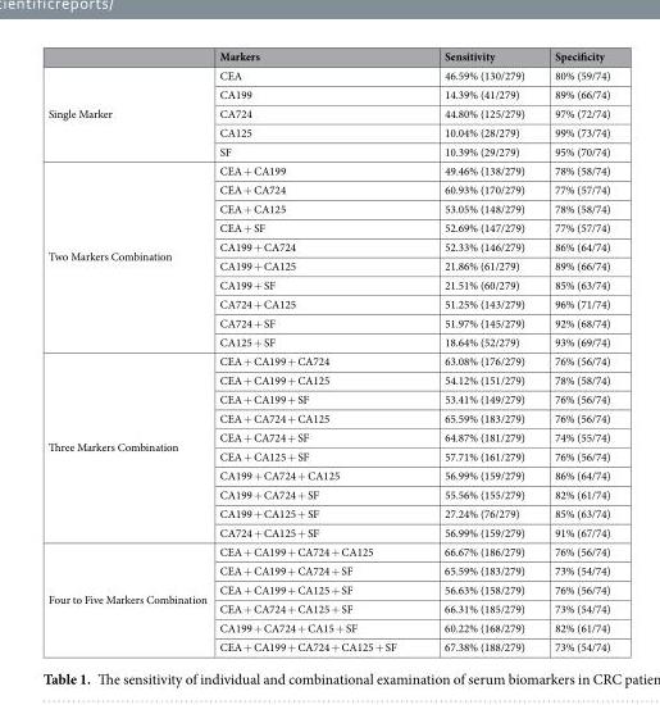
<table><thead><tr><td></td><td>Markers</td><td>Sensitivity</td><td>Specificity</td></tr></thead><tbody><tr><td rowspan="5">Single Marker</td><td>CEA</td><td>46.59% (130/279)</td><td>80% (59/74)</td></tr><tr><td>CA199</td><td>14.39% (41/279)</td><td>89% (66/74)</td></tr><tr><td>CA724</td><td>44.80% (125/279)</td><td>97% (72/74)</td></tr><tr><td>CA125</td><td>10.04% (28/279)</td><td>99% (73/74)</td></tr><tr><td>SF</td><td>10.39% (29/279)</td><td>95% (70/74)</td></tr><tr><td rowspan="10">Two Markers Combination</td><td>CEA + CA199</td><td>49.46% (138/279)</td><td>78% (58/74)</td></tr><tr><td>CEA + CA724</td><td>60.93% (170/279)</td><td>77% (57/74)</td></tr><tr><td>CEA + CA125</td><td>53.05% (148/279)</td><td>78% (58/74)</td></tr><tr><td>CEA + SF</td><td>52.69% (147/279)</td><td>77% (57/74)</td></tr><tr><td>CA199 + CA724</td><td>52.33% (146/279)</td><td>86% (64/74)</td></tr><tr><td>CA199 + CA125</td><td>21.86% (61/279)</td><td>89% (66/74)</td></tr><tr><td>CA199 + SF</td><td>21.51% (60/279)</td><td>85% (63/74)</td></tr><tr><td>CA724 + CA125</td><td>51.25% (143/279)</td><td>96% (71/74)</td></tr><tr><td>CA724 + SF</td><td>51.97% (145/279)</td><td>92% (68/74)</td></tr><tr><td>CA125 + SF</td><td>18.64% (52/279)</td><td>93% (69/74)</td></tr><tr><td rowspan="10">Three Markers Combination</td><td>CEA + CA199 + CA724</td><td>63.08% (176/279)</td><td>76% (56/74)</td></tr><tr><td>CEA + CA199 + CA125</td><td>54.12% (151/279)</td><td>78% (58/74)</td></tr><tr><td>CEA + CA199 + SF</td><td>53.41% (149/279)</td><td>76% (56/74)</td></tr><tr><td>CEA + CA724 + CA125</td><td>65.59% (183/279)</td><td>76% (56/74)</td></tr><tr><td>CEA + CA724 + SF</td><td>64.87% (181/279)</td><td>74% (55/74)</td></tr><tr><td>CEA + CA125 + SF</td><td>57.71% (161/279)</td><td>76% (56/74)</td></tr><tr><td>CA199 + CA724 + CA125</td><td>56.99% (159/279)</td><td>86% (64/74)</td></tr><tr><td>CA199 + CA724 + SF</td><td>55.56% (155/279)</td><td>82% (61/74)</td></tr><tr><td>CA199 + CA125 + SF</td><td>27.24% (76/279)</td><td>85% (63/74)</td></tr><tr><td>CA724 + CA125 + SF</td><td>56.99% (159/279)</td><td>91% (67/74)</td></tr><tr><td rowspan="6">Four to Five Markers Combination</td><td>CEA + CA199 + CA724 + CA125</td><td>66.67% (186/279)</td><td>76% (56/74)</td></tr><tr><td>CEA + CA199 + CA724 + SF</td><td>65.59% (183/279)</td><td>73% (54/74)</td></tr><tr><td>CEA + CA199 + CA125 + SF</td><td>56.63% (158/279)</td><td>76% (56/74)</td></tr><tr><td>CEA + CA724 + CA125 + SF</td><td>66.31% (185/279)</td><td>73% (54/74)</td></tr><tr><td>CA199 + CA724 + CA15 + SF</td><td>60.22% (168/279)</td><td>82% (61/74)</td></tr><tr><td>CEA + CA199 + CA724 + CA125 + SF</td><td>67.38% (188/279)</td><td>73% (54/74)</td></tr></tbody></table>